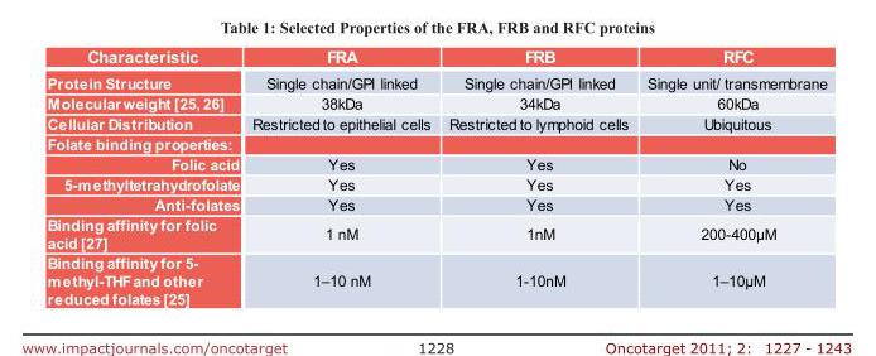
<table><thead><tr><td>Characteristic</td><td>FRA</td><td>FRB</td><td>RFC</td></tr></thead><tbody><tr><td>Protein Structure</td><td>Single chain/GPI linked</td><td>Single chain/GPI linked</td><td>Single unit/ transmembrane</td></tr><tr><td>Molecular weight [25, 26]</td><td>38kDa</td><td>34kDa</td><td>60kDa</td></tr><tr><td>Cellular Distribution</td><td>Restricted to epithelial cells</td><td>Restricted to lymphoid cells</td><td>Ubiquitous</td></tr><tr><td colspan="4">Folate binding properties:</td></tr><tr><td>Folic acid</td><td>Yes</td><td>Yes</td><td>No</td></tr><tr><td>5-methyltetrahydrofolate</td><td>Yes</td><td>Yes</td><td>Yes</td></tr><tr><td>Anti-folates</td><td>Yes</td><td>Yes</td><td>Yes</td></tr><tr><td>Binding affinity for folic acid [27]</td><td>1 nM</td><td>1nM</td><td>200-400μM</td></tr><tr><td>Binding affinity for 5- methyl-THF and other reduced folates [25]</td><td>1–10 nM</td><td>1-10nM</td><td>1–10μM</td></tr></tbody></table>